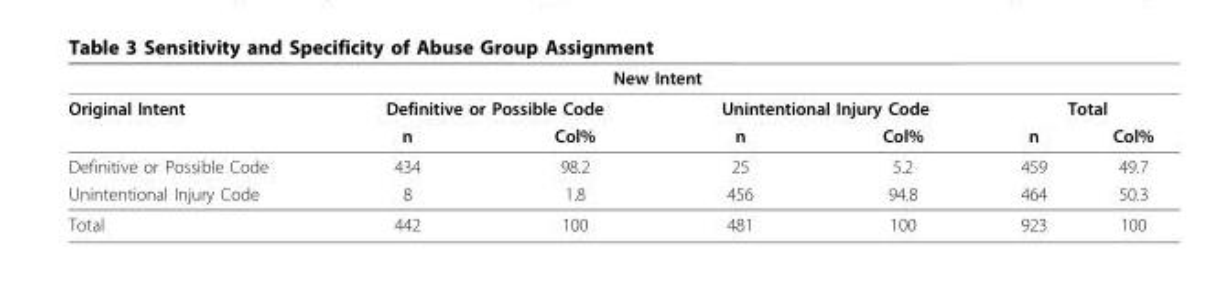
<table><thead><tr><td rowspan="3">Original Intent</td><td colspan="4">New Intent</td><td></td><td></td></tr><tr><td colspan="2">Definitive or Possible Code</td><td colspan="2">Unintentional Injury Code</td><td colspan="2">Total</td></tr><tr><td>n</td><td>Col%</td><td>n</td><td>Col%</td><td>n</td><td>Col%</td></tr></thead><tbody><tr><td>Definitive or Possible Code</td><td>434</td><td>98.2</td><td>25</td><td>5.2</td><td>459</td><td>49.7</td></tr><tr><td>Unintentional Injury Code</td><td>8</td><td>1.8</td><td>456</td><td>94.8</td><td>464</td><td>50.3</td></tr><tr><td>Total</td><td>442</td><td>100</td><td>481</td><td>100</td><td>923</td><td>100</td></tr></tbody></table>